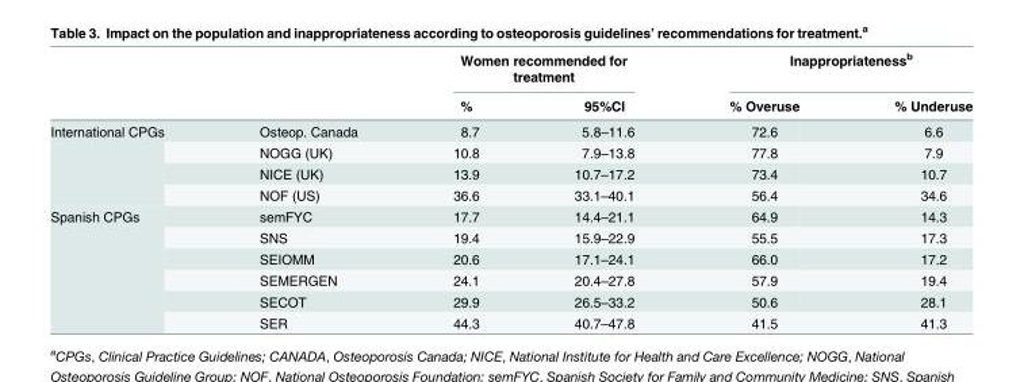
<table><thead><tr><td rowspan="2"></td><td rowspan="2"></td><td colspan="2">Women recommended for treatment</td><td colspan="2">Inappropriateness<sup>b</sup></td></tr><tr><td>%</td><td>95%CI</td><td>% Overuse</td><td>% Underuse</td></tr></thead><tbody><tr><td rowspan="4">International CPGs</td><td>Osteop. Canada</td><td>8.7</td><td>5.8–11.6</td><td>72.6</td><td>6.6</td></tr><tr><td>NOGG (UK)</td><td>10.8</td><td>7.9–13.8</td><td>77.8</td><td>7.9</td></tr><tr><td>NICE (UK)</td><td>13.9</td><td>10.7–17.2</td><td>73.4</td><td>10.7</td></tr><tr><td>NOF (US)</td><td>36.6</td><td>33.1–40.1</td><td>56.4</td><td>34.6</td></tr><tr><td rowspan="6">Spanish CPGs</td><td>semFYC</td><td>17.7</td><td>14.4–21.1</td><td>64.9</td><td>14.3</td></tr><tr><td>SNS</td><td>19.4</td><td>15.9–22.9</td><td>55.5</td><td>17.3</td></tr><tr><td>SEIOMM</td><td>20.6</td><td>17.1–24.1</td><td>66.0</td><td>17.2</td></tr><tr><td>SEMERGEN</td><td>24.1</td><td>20.4–27.8</td><td>57.9</td><td>19.4</td></tr><tr><td>SECOT</td><td>29.9</td><td>26.5–33.2</td><td>50.6</td><td>28.1</td></tr><tr><td>SER</td><td>44.3</td><td>40.7–47.8</td><td>41.5</td><td>41.3</td></tr></tbody></table>